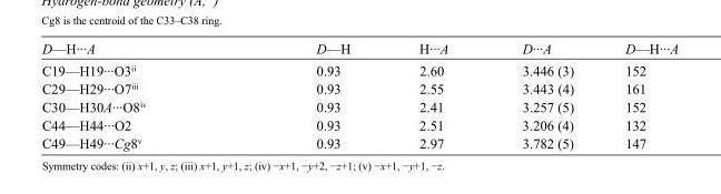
<table><tbody><tr><td>D—H···A</td><td>D—H</td><td>H···A</td><td>D···A</td><td>D—H···A</td></tr><tr><td>C19—H19···O3<sup>ii</sup></td><td>0.93</td><td>2.60</td><td>3.446 (3)</td><td>152</td></tr><tr><td>C29—H29···O7<sup>iii</sup></td><td>0.93</td><td>2.55</td><td>3.443 (4)</td><td>161</td></tr><tr><td>C30—H30A···O8<sup>iv</sup></td><td>0.93</td><td>2.41</td><td>3.257 (5)</td><td>152</td></tr><tr><td>C44—H44···O2</td><td>0.93</td><td>2.51</td><td>3.206 (4)</td><td>132</td></tr><tr><td>C49—H49···Cg8<sup>v</sup></td><td>0.93</td><td>2.97</td><td>3.782 (5)</td><td>147</td></tr></tbody></table>